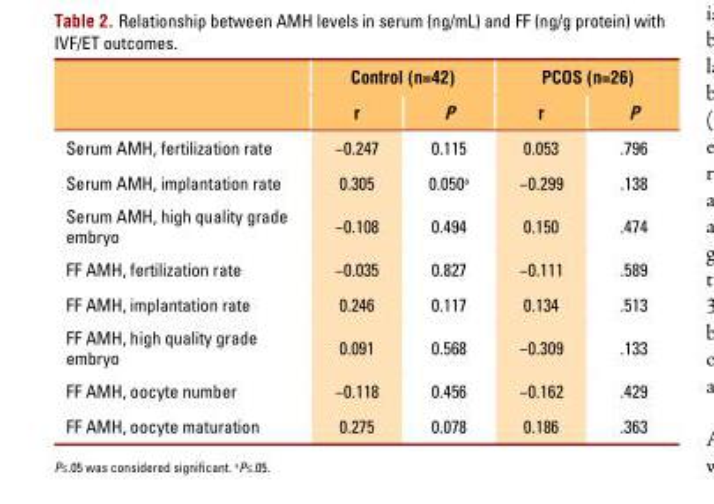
<table><thead><tr><td rowspan="2"></td><td colspan="2">Control (n=42)</td><td colspan="2">PCOS (n=26)</td></tr><tr><td>r</td><td>P</td><td>r</td><td>P</td></tr></thead><tbody><tr><td>Serum AMH, fertilization rate</td><td>−0.247</td><td>0.115</td><td>0.053</td><td>.796</td></tr><tr><td>Serum AMH, implantation rate</td><td>0.305</td><td>0.050<sup>a</sup></td><td>−0.299</td><td>.138</td></tr><tr><td>Serum AMH, high quality grade embryo</td><td>−0.108</td><td>0.494</td><td>0.150</td><td>.474</td></tr><tr><td>FF AMH, fertilization rate</td><td>−0.035</td><td>0.827</td><td>−0.111</td><td>.589</td></tr><tr><td>FF AMH, implantation rate</td><td>0.246</td><td>0.117</td><td>0.134</td><td>.513</td></tr><tr><td>FF AMH, high quality grade embryo</td><td>0.091</td><td>0.568</td><td>−0.309</td><td>.133</td></tr><tr><td>FF AMH, oocyte number</td><td>−0.118</td><td>0.456</td><td>−0.162</td><td>.429</td></tr><tr><td>FF AMH, oocyte maturation</td><td>0.275</td><td>0.078</td><td>0.186</td><td>.363</td></tr></tbody></table>